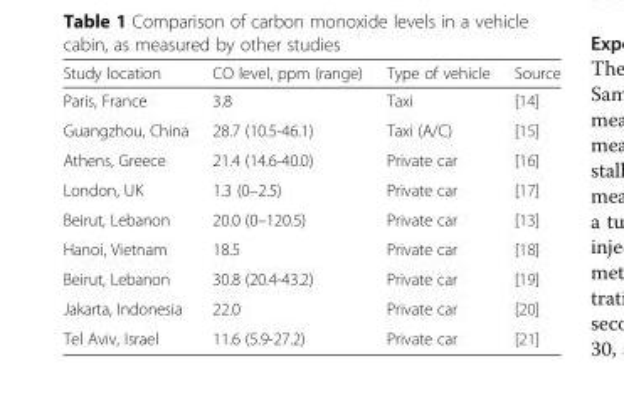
<table><thead><tr><td>Study location</td><td>CO level, ppm (range)</td><td>Type of vehicle</td><td>Source</td></tr></thead><tbody><tr><td>Paris, France</td><td>3.8</td><td>Taxi</td><td>[14]</td></tr><tr><td>Guangzhou, China</td><td>28.7 (10.5-46.1)</td><td>Taxi (A/C)</td><td>[15]</td></tr><tr><td>Athens, Greece</td><td>21.4 (14.6-40.0)</td><td>Private car</td><td>[16]</td></tr><tr><td>London, UK</td><td>1.3 (0–2.5)</td><td>Private car</td><td>[17]</td></tr><tr><td>Beirut, Lebanon</td><td>20.0 (0–120.5)</td><td>Private car</td><td>[13]</td></tr><tr><td>Hanoi, Vietnam</td><td>18.5</td><td>Private car</td><td>[18]</td></tr><tr><td>Beirut, Lebanon</td><td>30.8 (20.4-43.2)</td><td>Private car</td><td>[19]</td></tr><tr><td>Jakarta, Indonesia</td><td>22.0</td><td>Private car</td><td>[20]</td></tr><tr><td>Tel Aviv, Israel</td><td>11.6 (5.9-27.2)</td><td>Private car</td><td>[21]</td></tr></tbody></table>